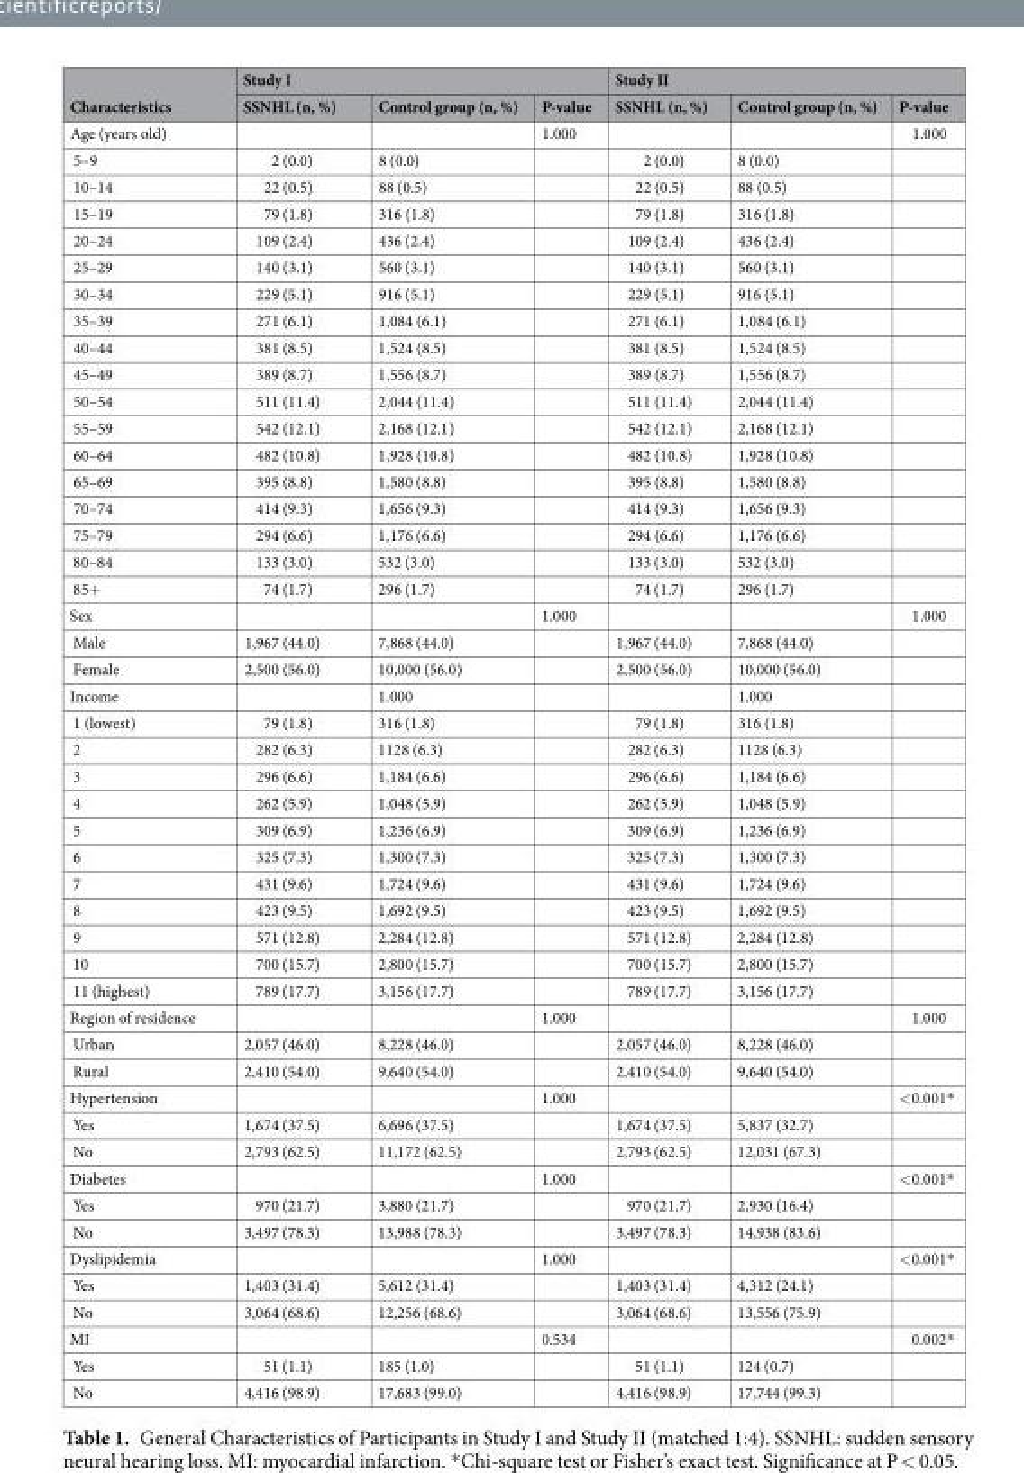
<table><thead><tr><td rowspan="2">Characteristics</td><td colspan="3">Study I</td><td colspan="3">Study II</td></tr><tr><td>SSNHL (n, %)</td><td>Control group (n, %)</td><td>P-value</td><td>SSNHL (n, %)</td><td>Control group (n, %)</td><td>P-value</td></tr></thead><tbody><tr><td>Age (years old)</td><td></td><td></td><td>1.000</td><td></td><td></td><td>1.000</td></tr><tr><td>5–9</td><td>2 (0.0)</td><td>8 (0.0)</td><td></td><td>2 (0.0)</td><td>8 (0.0)</td><td></td></tr><tr><td>10–14</td><td>22 (0.5)</td><td>88 (0.5)</td><td></td><td>22 (0.5)</td><td>88 (0.5)</td><td></td></tr><tr><td>15–19</td><td>79 (1.8)</td><td>316 (1.8)</td><td></td><td>79 (1.8)</td><td>316 (1.8)</td><td></td></tr><tr><td>20–24</td><td>109 (2.4)</td><td>436 (2.4)</td><td></td><td>109 (2.4)</td><td>436 (2.4)</td><td></td></tr><tr><td>25–29</td><td>140 (3.1)</td><td>560 (3.1)</td><td></td><td>140 (3.1)</td><td>560 (3.1)</td><td></td></tr><tr><td>30–34</td><td>229 (5.1)</td><td>916 (5.1)</td><td></td><td>229 (5.1)</td><td>916 (5.1)</td><td></td></tr><tr><td>35–39</td><td>271 (6.1)</td><td>1,084 (6.1)</td><td></td><td>271 (6.1)</td><td>1,084 (6.1)</td><td></td></tr><tr><td>40–44</td><td>381 (8.5)</td><td>1,524 (8.5)</td><td></td><td>381 (8.5)</td><td>1,524 (8.5)</td><td></td></tr><tr><td>45–49</td><td>389 (8.7)</td><td>1,556 (8.7)</td><td></td><td>389 (8.7)</td><td>1,556 (8.7)</td><td></td></tr><tr><td>50–54</td><td>511 (11.4)</td><td>2,044 (11.4)</td><td></td><td>511 (11.4)</td><td>2,044 (11.4)</td><td></td></tr><tr><td>55–59</td><td>542 (12.1)</td><td>2,168 (12.1)</td><td></td><td>542 (12.1)</td><td>2,168 (12.1)</td><td></td></tr><tr><td>60–64</td><td>482 (10.8)</td><td>1,928 (10.8)</td><td></td><td>482 (10.8)</td><td>1,928 (10.8)</td><td></td></tr><tr><td>65–69</td><td>395 (8.8)</td><td>1,580 (8.8)</td><td></td><td>395 (8.8)</td><td>1,580 (8.8)</td><td></td></tr><tr><td>70–74</td><td>414 (9.3)</td><td>1,656 (9.3)</td><td></td><td>414 (9.3)</td><td>1,656 (9.3)</td><td></td></tr><tr><td>75–79</td><td>294 (6.6)</td><td>1,176 (6.6)</td><td></td><td>294 (6.6)</td><td>1,176 (6.6)</td><td></td></tr><tr><td>80–84</td><td>133 (3.0)</td><td>532 (3.0)</td><td></td><td>133 (3.0)</td><td>532 (3.0)</td><td></td></tr><tr><td>85+</td><td>74 (1.7)</td><td>296 (1.7)</td><td></td><td>74 (1.7)</td><td>296 (1.7)</td><td></td></tr><tr><td>Sex</td><td></td><td></td><td>1.000</td><td></td><td></td><td>1.000</td></tr><tr><td>Male</td><td>1,967 (44.0)</td><td>7,868 (44.0)</td><td></td><td>1,967 (44.0)</td><td>7,868 (44.0)</td><td></td></tr><tr><td>Female</td><td>2,500 (56.0)</td><td>10,000 (56.0)</td><td></td><td>2,500 (56.0)</td><td>10,000 (56.0)</td><td></td></tr><tr><td>Income</td><td></td><td>1.000</td><td></td><td></td><td>1.000</td><td></td></tr><tr><td>1 (lowest)</td><td>79 (1.8)</td><td>316 (1.8)</td><td></td><td>79 (1.8)</td><td>316 (1.8)</td><td></td></tr><tr><td>2</td><td>282 (6.3)</td><td>1128 (6.3)</td><td></td><td>282 (6.3)</td><td>1128 (6.3)</td><td></td></tr><tr><td>3</td><td>296 (6.6)</td><td>1,184 (6.6)</td><td></td><td>296 (6.6)</td><td>1,184 (6.6)</td><td></td></tr><tr><td>4</td><td>262 (5.9)</td><td>1,048 (5.9)</td><td></td><td>262 (5.9)</td><td>1,048 (5.9)</td><td></td></tr><tr><td>5</td><td>309 (6.9)</td><td>1,236 (6.9)</td><td></td><td>309 (6.9)</td><td>1,236 (6.9)</td><td></td></tr><tr><td>6</td><td>325 (7.3)</td><td>1,300 (7.3)</td><td></td><td>325 (7.3)</td><td>1,300 (7.3)</td><td></td></tr><tr><td>7</td><td>431 (9.6)</td><td>1,724 (9.6)</td><td></td><td>431 (9.6)</td><td>1,724 (9.6)</td><td></td></tr><tr><td>8</td><td>423 (9.5)</td><td>1,692 (9.5)</td><td></td><td>423 (9.5)</td><td>1,692 (9.5)</td><td></td></tr><tr><td>9</td><td>571 (12.8)</td><td>2,284 (12.8)</td><td></td><td>571 (12.8)</td><td>2,284 (12.8)</td><td></td></tr><tr><td>10</td><td>700 (15.7)</td><td>2,800 (15.7)</td><td></td><td>700 (15.7)</td><td>2,800 (15.7)</td><td></td></tr><tr><td>11 (highest)</td><td>789 (17.7)</td><td>3,156 (17.7)</td><td></td><td>789 (17.7)</td><td>3,156 (17.7)</td><td></td></tr><tr><td>Region of residence</td><td></td><td></td><td>1.000</td><td></td><td></td><td>1.000</td></tr><tr><td>Urban</td><td>2,057 (46.0)</td><td>8,228 (46.0)</td><td></td><td>2,057 (46.0)</td><td>8,228 (46.0)</td><td></td></tr><tr><td>Rural</td><td>2,410 (54.0)</td><td>9,640 (54.0)</td><td></td><td>2,410 (54.0)</td><td>9,640 (54.0)</td><td></td></tr><tr><td>Hypertension</td><td></td><td></td><td>1.000</td><td></td><td></td><td>&lt;0.001*</td></tr><tr><td>Yes</td><td>1,674 (37.5)</td><td>6,696 (37.5)</td><td></td><td>1,674 (37.5)</td><td>5,837 (32.7)</td><td></td></tr><tr><td>No</td><td>2,793 (62.5)</td><td>11,172 (62.5)</td><td></td><td>2,793 (62.5)</td><td>12,031 (67.3)</td><td></td></tr><tr><td>Diabetes</td><td></td><td></td><td>1.000</td><td></td><td></td><td>&lt;0.001*</td></tr><tr><td>Yes</td><td>970 (21.7)</td><td>3,880 (21.7)</td><td></td><td>970 (21.7)</td><td>2,930 (16.4)</td><td></td></tr><tr><td>No</td><td>3,497 (78.3)</td><td>13,988 (78.3)</td><td></td><td>3,497 (78.3)</td><td>14,938 (83.6)</td><td></td></tr><tr><td>Dyslipidemia</td><td></td><td></td><td>1.000</td><td></td><td></td><td>&lt;0.001*</td></tr><tr><td>Yes</td><td>1,403 (31.4)</td><td>5,612 (31.4)</td><td></td><td>1,403 (31.4)</td><td>4,312 (24.1)</td><td></td></tr><tr><td>No</td><td>3,064 (68.6)</td><td>12,256 (68.6)</td><td></td><td>3,064 (68.6)</td><td>13,556 (75.9)</td><td></td></tr><tr><td>MI</td><td></td><td></td><td>0.534</td><td></td><td></td><td>0.002*</td></tr><tr><td>Yes</td><td>51 (1.1)</td><td>185 (1.0)</td><td></td><td>51 (1.1)</td><td>124 (0.7)</td><td></td></tr><tr><td>No</td><td>4,416 (98.9)</td><td>17,683 (99.0)</td><td></td><td>4,416 (98.9)</td><td>17,744 (99.3)</td><td></td></tr></tbody></table>